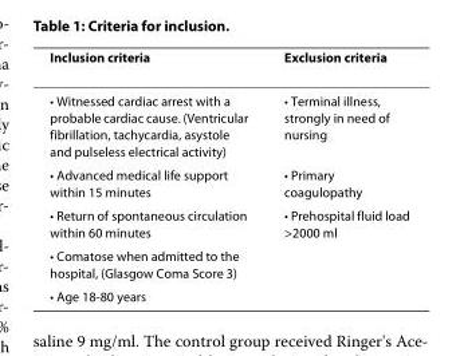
<table><thead><tr><td>Inclusion criteria</td><td>Exclusion criteria</td></tr></thead><tbody><tr><td>• Witnessed cardiac arrest with a probable cardiac cause. (Ventricular fibrillation, tachycardia, asystole and pulseless electrical activity)</td><td>• Terminal illness, strongly in need of nursing</td></tr><tr><td>• Advanced medical life support within 15 minutes</td><td>• Primary coagulopathy</td></tr><tr><td>• Return of spontaneous circulation within 60 minutes</td><td>• Prehospital fluid load &gt;2000 ml</td></tr><tr><td colspan="2">• Comatose when admitted to the hospital, (Glasgow Coma Score 3)</td></tr><tr><td>• Age 18-80 years</td><td></td></tr></tbody></table>